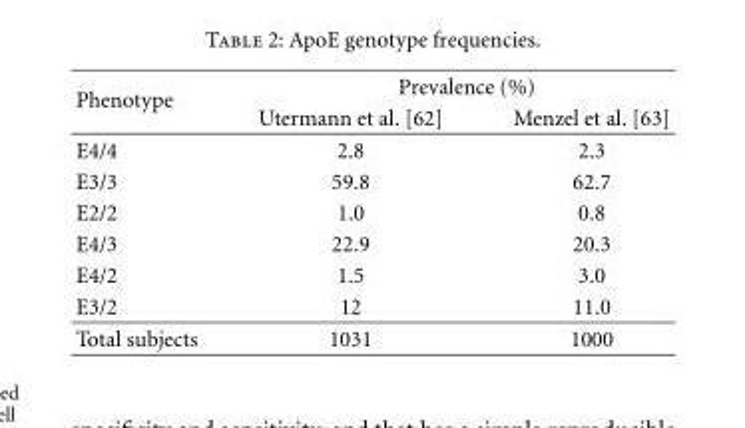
<table><thead><tr><td rowspan="2">Phenotype</td><td colspan="2">Prevalence (%)</td></tr><tr><td>Utermann et al. [62]</td><td>Menzel et al. [63]</td></tr></thead><tbody><tr><td>E4/4</td><td>2.8</td><td>2.3</td></tr><tr><td>E3/3</td><td>59.8</td><td>62.7</td></tr><tr><td>E2/2</td><td>1.0</td><td>0.8</td></tr><tr><td>E4/3</td><td>22.9</td><td>20.3</td></tr><tr><td>E4/2</td><td>1.5</td><td>3.0</td></tr><tr><td>E3/2</td><td>12</td><td>11.0</td></tr><tr><td>Total subjects</td><td>1031</td><td>1000</td></tr></tbody></table>